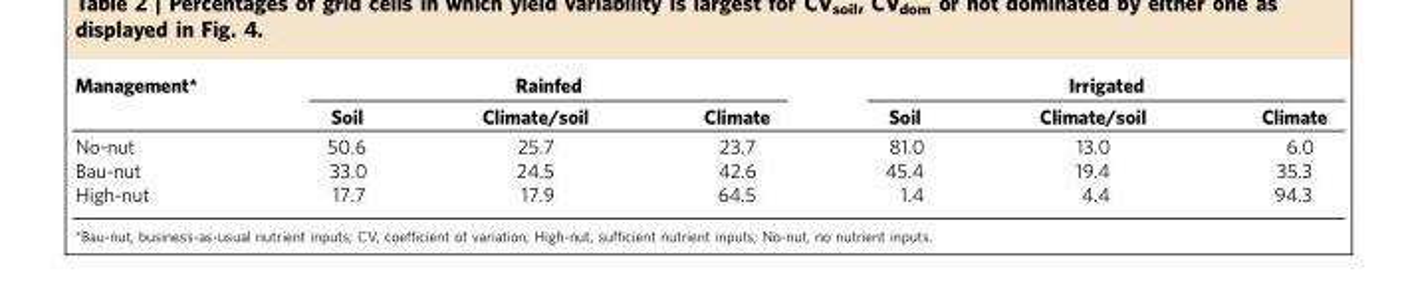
<table><thead><tr><td rowspan="2">Management*</td><td colspan="3">Rainfed</td><td colspan="3">Irrigated</td></tr><tr><td>Soil</td><td>Climate/soil</td><td>Climate</td><td>Soil</td><td>Climate/soil</td><td>Climate</td></tr></thead><tbody><tr><td>No-nut</td><td>50.6</td><td>25.7</td><td>23.7</td><td>81.0</td><td>13.0</td><td>6.0</td></tr><tr><td>Bau-nut</td><td>33.0</td><td>24.5</td><td>42.6</td><td>45.4</td><td>19.4</td><td>35.3</td></tr><tr><td>High-nut</td><td>17.7</td><td>17.9</td><td>64.5</td><td>1.4</td><td>4.4</td><td>94.3</td></tr></tbody></table>